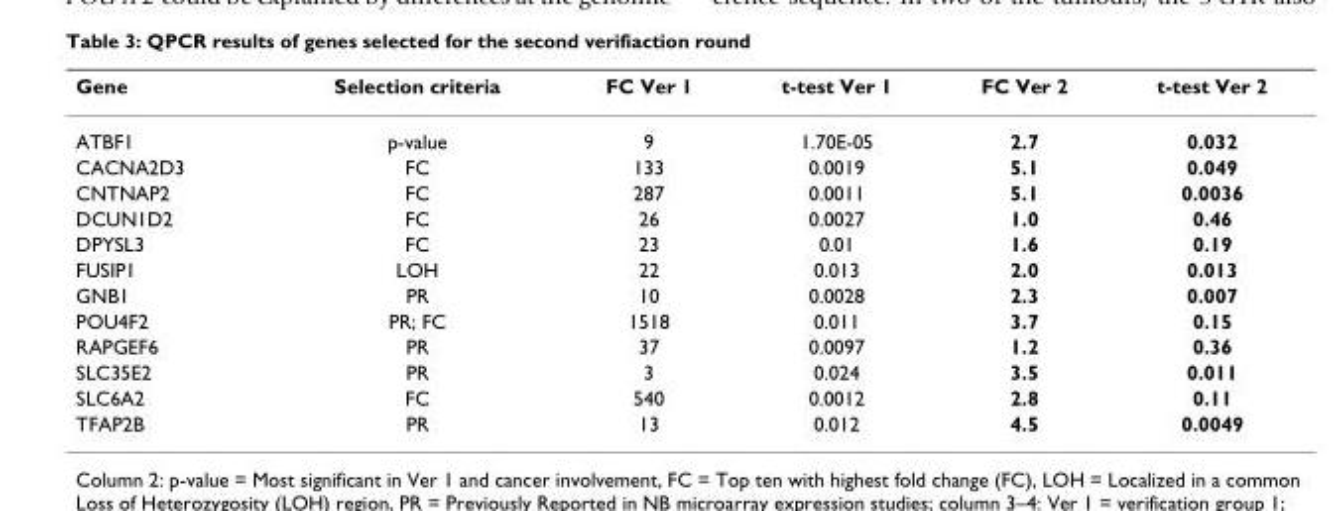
<table><thead><tr><td>Gene</td><td>Selection criteria</td><td>FC Ver 1</td><td>t-test Ver 1</td><td>FC Ver 2</td><td>t-test Ver 2</td></tr></thead><tbody><tr><td>ATBF1</td><td>p-value</td><td>9</td><td>1.70E-05</td><td>2.7</td><td>0.032</td></tr><tr><td>CACNA2D3</td><td>FC</td><td>133</td><td>0.0019</td><td>5.1</td><td>0.049</td></tr><tr><td>CNTNAP2</td><td>FC</td><td>287</td><td>0.0011</td><td>5.1</td><td>0.0036</td></tr><tr><td>DCUN1D2</td><td>FC</td><td>26</td><td>0.0027</td><td>1.0</td><td>0.46</td></tr><tr><td>DPYSL3</td><td>FC</td><td>23</td><td>0.01</td><td>1.6</td><td>0.19</td></tr><tr><td>FUSIP1</td><td>LOH</td><td>22</td><td>0.013</td><td>2.0</td><td>0.013</td></tr><tr><td>GNB1</td><td>PR</td><td>10</td><td>0.0028</td><td>2.3</td><td>0.007</td></tr><tr><td>POU4F2</td><td>PR; FC</td><td>1518</td><td>0.011</td><td>3.7</td><td>0.15</td></tr><tr><td>RAPGEF6</td><td>PR</td><td>37</td><td>0.0097</td><td>1.2</td><td>0.36</td></tr><tr><td>SLC35E2</td><td>PR</td><td>3</td><td>0.024</td><td>3.5</td><td>0.011</td></tr><tr><td>SLC6A2</td><td>FC</td><td>540</td><td>0.0012</td><td>2.8</td><td>0.11</td></tr><tr><td>TFAP2B</td><td>PR</td><td>13</td><td>0.012</td><td>4.5</td><td>0.0049</td></tr></tbody></table>